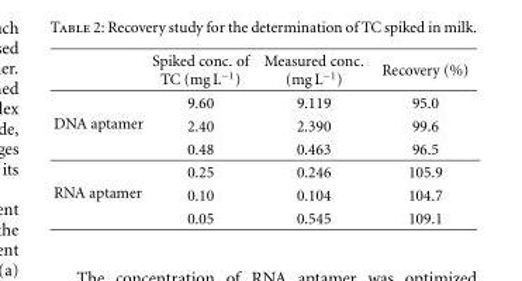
<table><thead><tr><td></td><td>Spiked conc. of TC (mg L<sup>−1</sup>)</td><td>Measured conc. (mg L<sup>−1</sup>)</td><td>Recovery (%)</td></tr></thead><tbody><tr><td rowspan="3">DNA aptamer</td><td>9.60</td><td>9.119</td><td>95.0</td></tr><tr><td>2.40</td><td>2.390</td><td>99.6</td></tr><tr><td>0.48</td><td>0.463</td><td>96.5</td></tr><tr><td rowspan="3">RNA aptamer</td><td>0.25</td><td>0.246</td><td>105.9</td></tr><tr><td>0.10</td><td>0.104</td><td>104.7</td></tr><tr><td>0.05</td><td>0.545</td><td>109.1</td></tr></tbody></table>